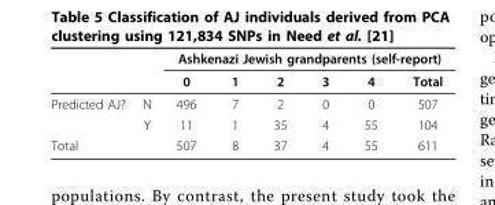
<table><thead><tr><td rowspan="2"></td><td rowspan="2"></td><td colspan="6">Ashkenazi Jewish grandparents (self-report)</td></tr><tr><td>0</td><td>1</td><td>2</td><td>3</td><td>4</td><td>Total</td></tr></thead><tbody><tr><td rowspan="2">Predicted AJ?</td><td>N</td><td>496</td><td>7</td><td>2</td><td>0</td><td>0</td><td>507</td></tr><tr><td>Y</td><td>11</td><td>1</td><td>35</td><td>4</td><td>55</td><td>104</td></tr><tr><td>Total</td><td></td><td>507</td><td>8</td><td>37</td><td>4</td><td>55</td><td>611</td></tr></tbody></table>